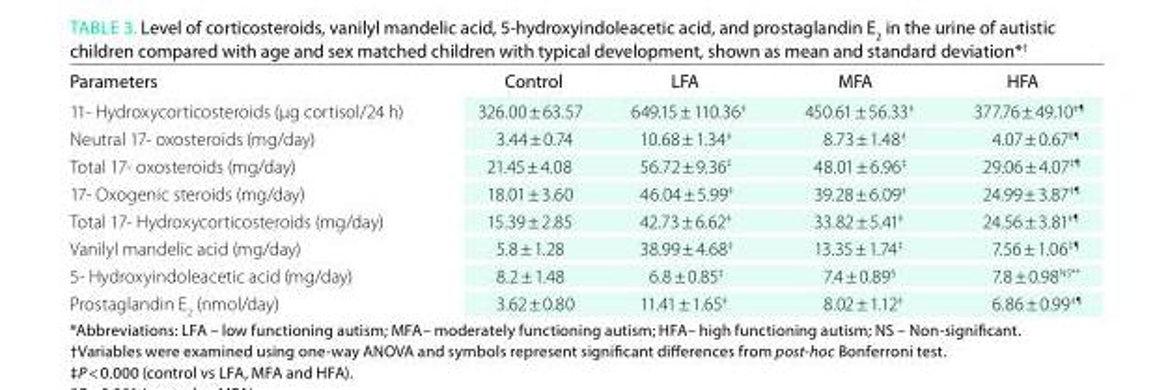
<table><thead><tr><td>Parameters</td><td>Control</td><td>LFA</td><td>MFA</td><td>hFA</td></tr></thead><tbody><tr><td>11- Hydroxycorticosteroids (μg cortisol/24 h)</td><td>326.00 ± 63.57</td><td>649.15 ± 110.36<sup>‡</sup></td><td>450.61 ± 56.33<sup>‡</sup></td><td>377.76 ± 49.10<sup>‡¶</sup></td></tr><tr><td>Neutral 17- oxosteroids (mg/day)</td><td>3.44 ± 0.74</td><td>10.68 ± 1.34<sup>‡</sup></td><td>8.73 ± 1.48<sup>‡</sup></td><td>4.07 ± 0.67II¶</td></tr><tr><td>Total 17- oxosteroids (mg/day)</td><td>21.45 ± 4.08</td><td>56.72 ± 9.36<sup>‡</sup></td><td>48.01 ± 6.96<sup>‡</sup></td><td>29.06 ± 4.07<sup>‡¶</sup></td></tr><tr><td>17- Oxogenic steroids (mg/day)</td><td>18.01 ± 3.60</td><td>46.04 ± 5.99<sup>‡</sup></td><td>39.28 ± 6.09<sup>‡</sup></td><td>24.99 ± 3.87<sup>‡¶</sup></td></tr><tr><td>Total 17- Hydroxycorticosteroids (mg/day)</td><td>15.39 ± 2.85</td><td>42.73 ± 6.62<sup>‡</sup></td><td>33.82 ± 5.41<sup>‡</sup></td><td>24.56 ± 3.81<sup>‡¶</sup></td></tr><tr><td>Vanilyl mandelic acid (mg/day)</td><td>5.8 ± 1.28</td><td>38.99 ± 4.68<sup>‡</sup></td><td>13.35 ± 1.74<sup>‡</sup></td><td>7.56 ± 1.06<sup>‡¶</sup></td></tr><tr><td>5- Hydroxyindoleacetic acid (mg/day)</td><td>8.2 ± 1.48</td><td>6.8 ± 0.85<sup>‡</sup></td><td>7.4 ± 0.89<sup>§</sup></td><td>7.8 ± 0.98<sup>NS**</sup></td></tr><tr><td>Prostaglandin E<sub>2</sub> (nmol/day)</td><td>3.62 ± 0.80</td><td>11.41 ± 1.65<sup>‡</sup></td><td>8.02 ± 1.12<sup>‡</sup></td><td>6.86 ± 0.99<sup>‡¶</sup></td></tr></tbody></table>